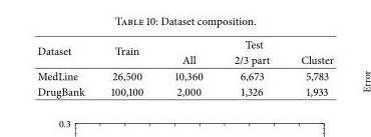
<table><thead><tr><td rowspan="2">Dataset</td><td rowspan="2">Train</td><td colspan="3">Test</td></tr><tr><td>All</td><td>2/3 part</td><td>Cluster</td></tr></thead><tbody><tr><td>MedLine</td><td>26,500</td><td>10,360</td><td>6,673</td><td>5,783</td></tr><tr><td>DrugBank</td><td>100,100</td><td>2,000</td><td>1,326</td><td>1,933</td></tr></tbody></table>